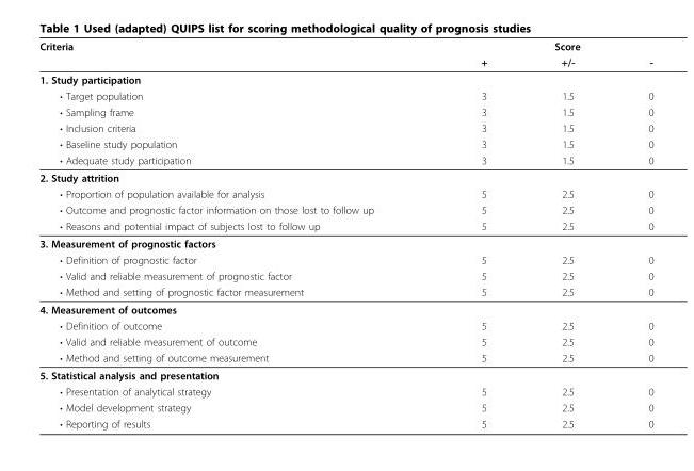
<table><thead><tr><td rowspan="2">Criteria</td><td colspan="3">Score</td></tr><tr><td>+</td><td>+/-</td><td>-</td></tr></thead><tbody><tr><td colspan="4">1. Study participation</td></tr><tr><td>• Target population</td><td>3</td><td>1.5</td><td>0</td></tr><tr><td>• Sampling frame</td><td>3</td><td>1.5</td><td>0</td></tr><tr><td>• Inclusion criteria</td><td>3</td><td>1.5</td><td>0</td></tr><tr><td>• Baseline study population</td><td>3</td><td>1.5</td><td>0</td></tr><tr><td>• Adequate study participation</td><td>3</td><td>1.5</td><td>0</td></tr><tr><td colspan="4">2. Study attrition</td></tr><tr><td>• Proportion of population available for analysis</td><td>5</td><td>2.5</td><td>0</td></tr><tr><td>• Outcome and prognostic factor information on those lost to follow up</td><td>5</td><td>2.5</td><td>0</td></tr><tr><td>• Reasons and potential impact of subjects lost to follow up</td><td>5</td><td>2.5</td><td>0</td></tr><tr><td colspan="4">3. Measurement of prognostic factors</td></tr><tr><td>• Definition of prognostic factor</td><td>5</td><td>2.5</td><td>0</td></tr><tr><td>• Valid and reliable measurement of prognostic factor</td><td>5</td><td>2.5</td><td>0</td></tr><tr><td>• Method and setting of prognostic factor measurement</td><td>5</td><td>2.5</td><td>0</td></tr><tr><td colspan="4">4. Measurement of outcomes</td></tr><tr><td>• Definition of outcome</td><td>5</td><td>2.5</td><td>0</td></tr><tr><td>• Valid and reliable measurement of outcome</td><td>5</td><td>2.5</td><td>0</td></tr><tr><td>• Method and setting of outcome measurement</td><td>5</td><td>2.5</td><td>0</td></tr><tr><td colspan="4">5. Statistical analysis and presentation</td></tr><tr><td>• Presentation of analytical strategy</td><td>5</td><td>2.5</td><td>0</td></tr><tr><td>• Model development strategy</td><td>5</td><td>2.5</td><td>0</td></tr><tr><td>• Reporting of results</td><td>5</td><td>2.5</td><td>0</td></tr></tbody></table>